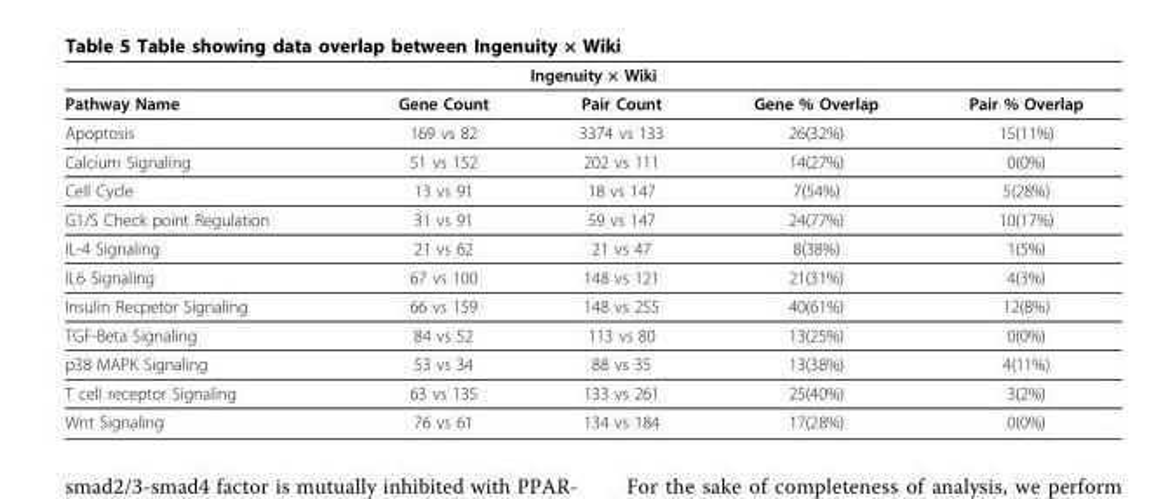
<table><thead><tr><td colspan="5">Ingenuity × Wiki</td></tr><tr><td>Pathway Name</td><td>Gene Count</td><td>Pair Count</td><td>Gene % Overlap</td><td>Pair % Overlap</td></tr></thead><tbody><tr><td>Apoptosis</td><td>169 vs 82</td><td>3374 vs 133</td><td>26(32%)</td><td>15(11%)</td></tr><tr><td>Calcium Signaling</td><td>51 vs 152</td><td>202 vs 111</td><td>14(27%)</td><td>0(0%)</td></tr><tr><td>Cell Cycle</td><td>13 vs 91</td><td>18 vs 147</td><td>7(54%)</td><td>5(28%)</td></tr><tr><td>G1/S Check point Regulation</td><td>31 vs 91</td><td>59 vs 147</td><td>24(77%)</td><td>10(17%)</td></tr><tr><td>IL-4 Signaling</td><td>21 vs 62</td><td>21 vs 47</td><td>8(38%)</td><td>1(5%)</td></tr><tr><td>IL6 Signaling</td><td>67 vs 100</td><td>148 vs 121</td><td>21(31%)</td><td>4(3%)</td></tr><tr><td>Insulin Recpetor Signaling</td><td>66 vs 159</td><td>148 vs 255</td><td>40(61%)</td><td>12(8%)</td></tr><tr><td>TGF-Beta Signaling</td><td>84 vs 52</td><td>113 vs 80</td><td>13(25%)</td><td>0(0%)</td></tr><tr><td>p38 MAPK Signaling</td><td>53 vs 34</td><td>88 vs 35</td><td>13(38%)</td><td>4(11%)</td></tr><tr><td>T cell receptor Signaling</td><td>63 vs 135</td><td>133 vs 261</td><td>25(40%)</td><td>3(2%)</td></tr><tr><td>Wnt Signaling</td><td>76 vs 61</td><td>134 vs 184</td><td>17(28%)</td><td>0(0%)</td></tr></tbody></table>